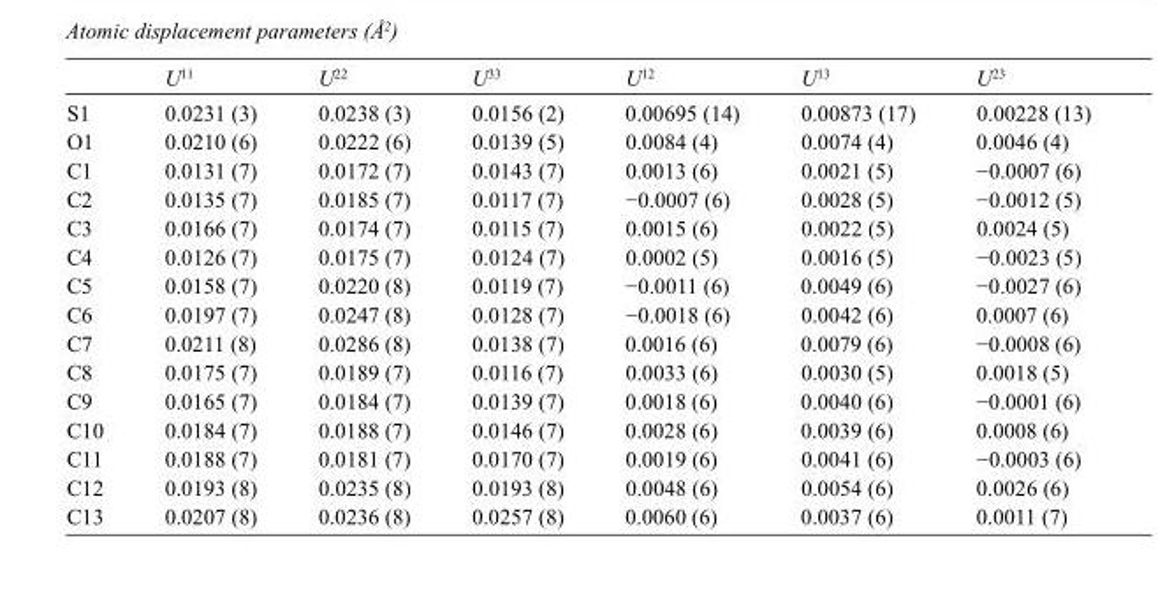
<table><thead><tr><td></td><td>U<sup>11</sup></td><td>U<sup>22</sup></td><td>U<sup>33</sup></td><td>U<sup>12</sup></td><td>U<sup>13</sup></td><td>U<sup>23</sup></td></tr></thead><tbody><tr><td>S1</td><td>0.0231 (3)</td><td>0.0238 (3)</td><td>0.0156 (2)</td><td>0.00695 (14)</td><td>0.00873 (17)</td><td>0.00228 (13)</td></tr><tr><td>O1</td><td>0.0210 (6)</td><td>0.0222 (6)</td><td>0.0139 (5)</td><td>0.0084 (4)</td><td>0.0074 (4)</td><td>0.0046 (4)</td></tr><tr><td>C1</td><td>0.0131 (7)</td><td>0.0172 (7)</td><td>0.0143 (7)</td><td>0.0013 (6)</td><td>0.0021 (5)</td><td>−0.0007 (6)</td></tr><tr><td>C2</td><td>0.0135 (7)</td><td>0.0185 (7)</td><td>0.0117 (7)</td><td>−0.0007 (6)</td><td>0.0028 (5)</td><td>−0.0012 (5)</td></tr><tr><td>C3</td><td>0.0166 (7)</td><td>0.0174 (7)</td><td>0.0115 (7)</td><td>0.0015 (6)</td><td>0.0022 (5)</td><td>0.0024 (5)</td></tr><tr><td>C4</td><td>0.0126 (7)</td><td>0.0175 (7)</td><td>0.0124 (7)</td><td>0.0002 (5)</td><td>0.0016 (5)</td><td>−0.0023 (5)</td></tr><tr><td>C5</td><td>0.0158 (7)</td><td>0.0220 (8)</td><td>0.0119 (7)</td><td>−0.0011 (6)</td><td>0.0049 (6)</td><td>−0.0027 (6)</td></tr><tr><td>C6</td><td>0.0197 (7)</td><td>0.0247 (8)</td><td>0.0128 (7)</td><td>−0.0018 (6)</td><td>0.0042 (6)</td><td>0.0007 (6)</td></tr><tr><td>C7</td><td>0.0211 (8)</td><td>0.0286 (8)</td><td>0.0138 (7)</td><td>0.0016 (6)</td><td>0.0079 (6)</td><td>−0.0008 (6)</td></tr><tr><td>C8</td><td>0.0175 (7)</td><td>0.0189 (7)</td><td>0.0116 (7)</td><td>0.0033 (6)</td><td>0.0030 (5)</td><td>0.0018 (5)</td></tr><tr><td>C9</td><td>0.0165 (7)</td><td>0.0184 (7)</td><td>0.0139 (7)</td><td>0.0018 (6)</td><td>0.0040 (6)</td><td>−0.0001 (6)</td></tr><tr><td>C10</td><td>0.0184 (7)</td><td>0.0188 (7)</td><td>0.0146 (7)</td><td>0.0028 (6)</td><td>0.0039 (6)</td><td>0.0008 (6)</td></tr><tr><td>C11</td><td>0.0188 (7)</td><td>0.0181 (7)</td><td>0.0170 (7)</td><td>0.0019 (6)</td><td>0.0041 (6)</td><td>−0.0003 (6)</td></tr><tr><td>C12</td><td>0.0193 (8)</td><td>0.0235 (8)</td><td>0.0193 (8)</td><td>0.0048 (6)</td><td>0.0054 (6)</td><td>0.0026 (6)</td></tr><tr><td>C13</td><td>0.0207 (8)</td><td>0.0236 (8)</td><td>0.0257 (8)</td><td>0.0060 (6)</td><td>0.0037 (6)</td><td>0.0011 (7)</td></tr></tbody></table>